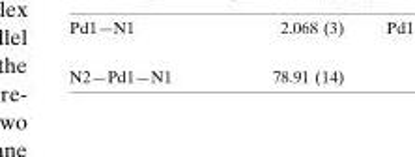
<table><tbody><tr><td>N2—Pd1—N1</td><td>78.91 (14)</td></tr></tbody></table>